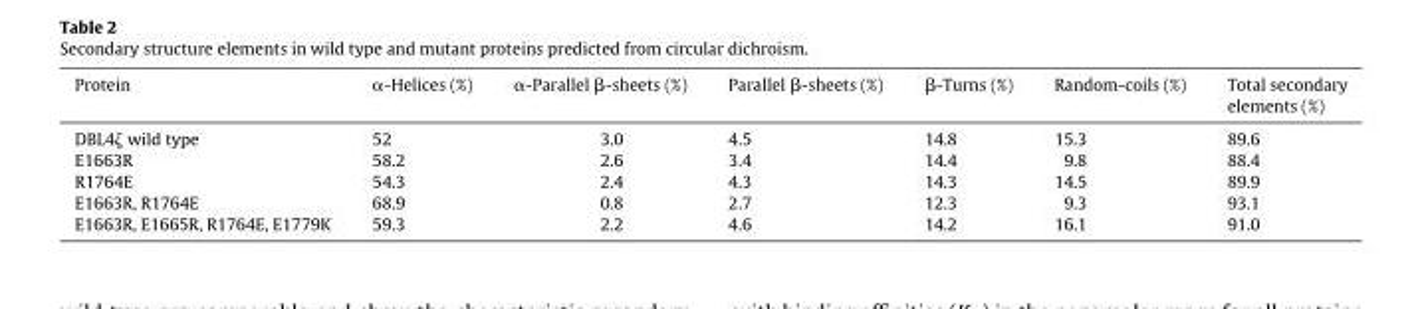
<table><thead><tr><td>Protein</td><td>α-Helices (%)</td><td>α-Parallel β-sheets (%)</td><td>Parallel β-sheets (%)</td><td>β-Turns (%)</td><td>Random-coils (%)</td><td>Total secondary elements (%)</td></tr></thead><tbody><tr><td>DBL4ζ wild type</td><td>52</td><td>3.0</td><td>4.5</td><td>14.8</td><td>15.3</td><td>89.6</td></tr><tr><td>E1663R</td><td>58.2</td><td>2.6</td><td>3.4</td><td>14.4</td><td>9.8</td><td>88.4</td></tr><tr><td>R1764E</td><td>54.3</td><td>2.4</td><td>4.3</td><td>14.3</td><td>14.5</td><td>89.9</td></tr><tr><td>E1663R, R1764E</td><td>68.9</td><td>0.8</td><td>2.7</td><td>12.3</td><td>9.3</td><td>93.1</td></tr><tr><td>E1663R, E1665R, R1764E, E1779K</td><td>59.3</td><td>2.2</td><td>4.6</td><td>14.2</td><td>16.1</td><td>91.0</td></tr></tbody></table>